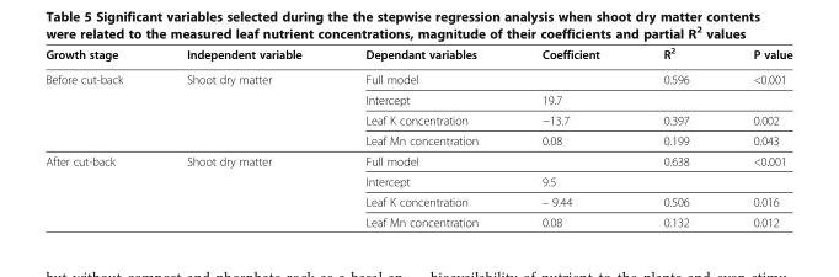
<table><thead><tr><td>Growth stage</td><td>Independent variable</td><td>Dependant variables</td><td>Coefficient</td><td>R<sup>2</sup></td><td>P value</td></tr></thead><tbody><tr><td rowspan="4">Before cut-back</td><td rowspan="4">Shoot dry matter</td><td>Full model</td><td></td><td>0.596</td><td>&lt;0.001</td></tr><tr><td>Intercept</td><td>19.7</td><td></td><td></td></tr><tr><td>Leaf K concentration</td><td>−13.7</td><td>0.397</td><td>0.002</td></tr><tr><td>Leaf Mn concentration</td><td>0.08</td><td>0.199</td><td>0.043</td></tr><tr><td rowspan="4">After cut-back</td><td rowspan="4">Shoot dry matter</td><td>Full model</td><td></td><td>0.638</td><td>&lt;0.001</td></tr><tr><td>Intercept</td><td>9.5</td><td></td><td></td></tr><tr><td>Leaf K concentration</td><td>– 9.44</td><td>0.506</td><td>0.016</td></tr><tr><td>Leaf Mn concentration</td><td>0.08</td><td>0.132</td><td>0.012</td></tr></tbody></table>